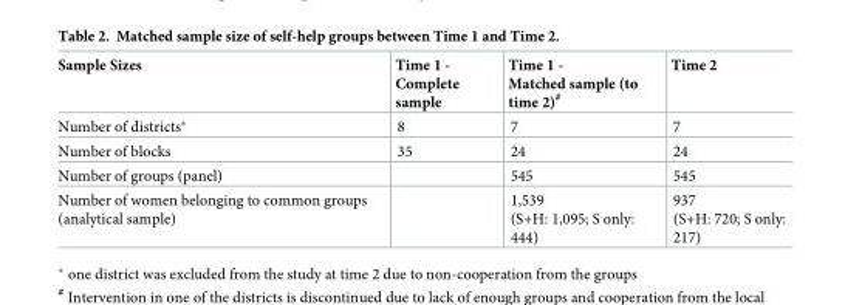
<table><thead><tr><td>Sample Sizes</td><td>Time 1 - Complete sample</td><td>Time 1 - Matched sample (to time 2)<sup>#</sup></td><td>Time 2</td></tr></thead><tbody><tr><td>Number of districts*</td><td>8</td><td>7</td><td>7</td></tr><tr><td>Number of blocks</td><td>35</td><td>24</td><td>24</td></tr><tr><td>Number of groups (panel)</td><td></td><td>545</td><td>545</td></tr><tr><td>Number of women belonging to common groups (analytical sample)</td><td></td><td>1,539 (S+H: 1,095; S only: 444)</td><td>937 (S+H: 720; S only: 217)</td></tr></tbody></table>